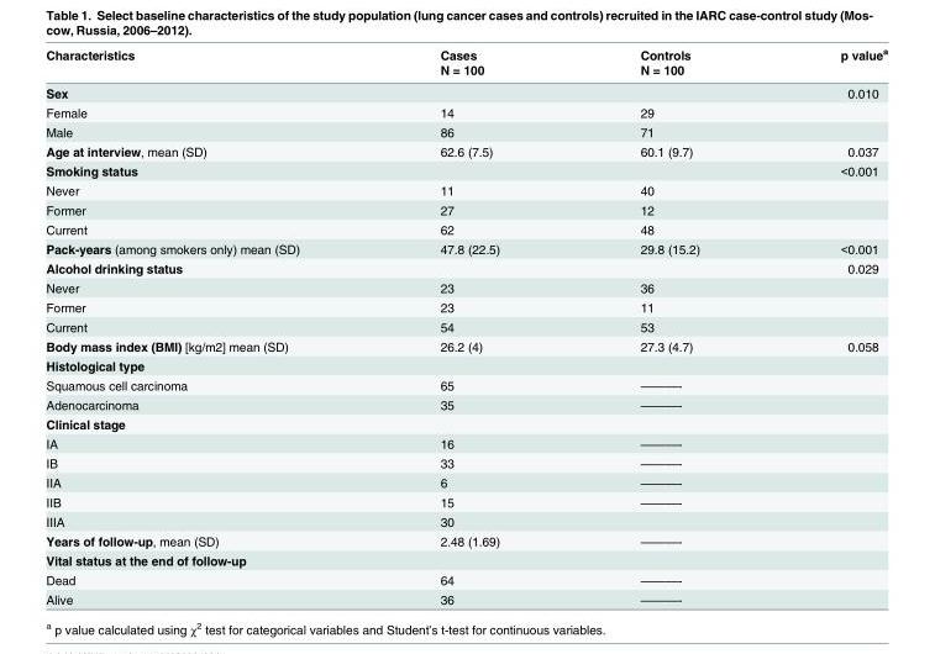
<table><thead><tr><td rowspan="2">Characteristics</td><td rowspan="2">Cases N = 100</td><td rowspan="2">Controls N = 100</td><td rowspan="2">p value<sup>a</sup></td></tr><tr></tr></thead><tbody><tr><td>Sex</td><td></td><td></td><td>0.010</td></tr><tr><td>Female</td><td>14</td><td>29</td><td></td></tr><tr><td>Male</td><td>86</td><td>71</td><td></td></tr><tr><td>Age at interview, mean (SD)</td><td>62.6 (7.5)</td><td>60.1 (9.7)</td><td>0.037</td></tr><tr><td>Smoking status</td><td></td><td></td><td>&lt;0.001</td></tr><tr><td>Never</td><td>11</td><td>40</td><td></td></tr><tr><td>Former</td><td>27</td><td>12</td><td></td></tr><tr><td>Current</td><td>62</td><td>48</td><td></td></tr><tr><td>Pack-years (among smokers only) mean (SD)</td><td>47.8 (22.5)</td><td>29.8 (15.2)</td><td>&lt;0.001</td></tr><tr><td>Alcohol drinking status</td><td></td><td></td><td>0.029</td></tr><tr><td>Never</td><td>23</td><td>36</td><td></td></tr><tr><td>Former</td><td>23</td><td>11</td><td></td></tr><tr><td>Current</td><td>54</td><td>53</td><td></td></tr><tr><td>Body mass index (BMI) [kg/m2] mean (SD)</td><td>26.2 (4)</td><td>27.3 (4.7)</td><td>0.058</td></tr><tr><td colspan="4">Histological type</td></tr><tr><td>Squamous cell carcinoma</td><td>65</td><td>———-</td><td></td></tr><tr><td>Adenocarcinoma</td><td>35</td><td>———-</td><td></td></tr><tr><td colspan="4">Clinical stage</td></tr><tr><td>IA</td><td>16</td><td>———-</td><td></td></tr><tr><td>IB</td><td>33</td><td>———-</td><td></td></tr><tr><td>IIA</td><td>6</td><td>———-</td><td></td></tr><tr><td>IIB</td><td>15</td><td>———-</td><td></td></tr><tr><td>IIIA</td><td>30</td><td></td><td></td></tr><tr><td>Years of follow-up, mean (SD)</td><td>2.48 (1.69)</td><td>———-</td><td></td></tr><tr><td colspan="4">Vital status at the end of follow-up</td></tr><tr><td>Dead</td><td>64</td><td>———-</td><td></td></tr><tr><td>Alive</td><td>36</td><td>———-</td><td></td></tr></tbody></table>